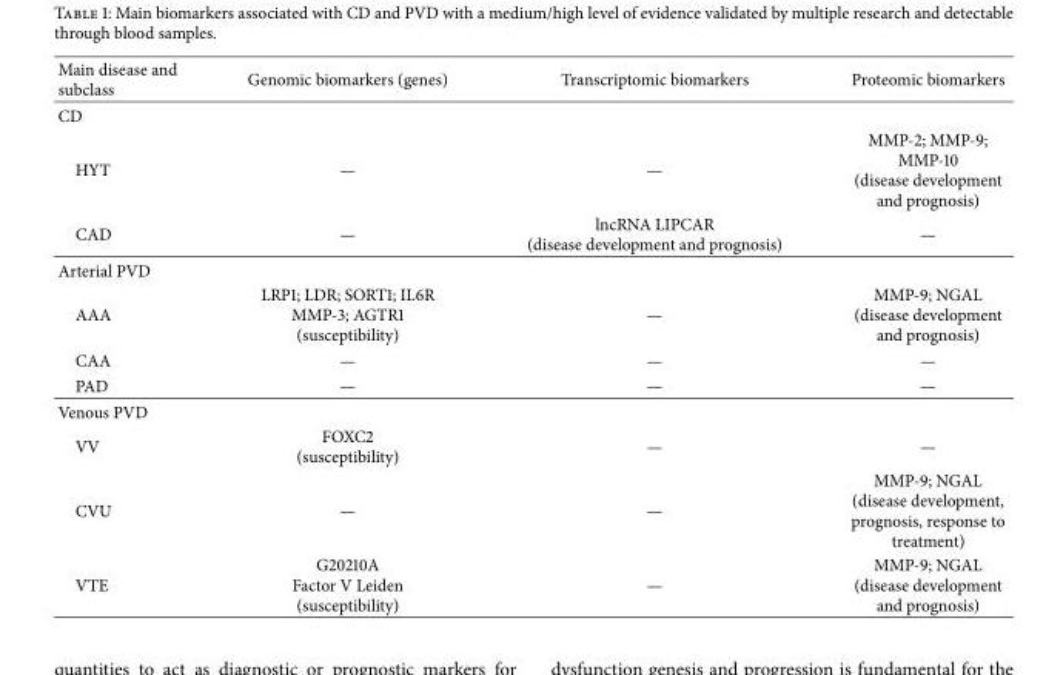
<table><thead><tr><td>Main disease and subclass</td><td>Genomic biomarkers (genes)</td><td>Transcriptomic biomarkers</td><td>Proteomic biomarkers</td></tr></thead><tbody><tr><td colspan="4">CD</td></tr><tr><td>HYT</td><td>—</td><td>—</td><td>MMP-2; MMP-9; MMP-10 (disease development and prognosis)</td></tr><tr><td>CAD</td><td>—</td><td>lncRNA LIPCAR (disease development and prognosis)</td><td>—</td></tr><tr><td colspan="4">Arterial PVD</td></tr><tr><td>AAA</td><td>LRP1; LDR; SORT1; IL6R MMP-3; AGTR1 (susceptibility)</td><td>—</td><td>MMP-9; NGAL (disease development and prognosis)</td></tr><tr><td>CAA</td><td>—</td><td>—</td><td>—</td></tr><tr><td>PAD</td><td>—</td><td>—</td><td>—</td></tr><tr><td colspan="4">Venous PVD</td></tr><tr><td>VV</td><td>FOXC2 (susceptibility)</td><td>—</td><td>—</td></tr><tr><td>CVU</td><td>—</td><td>—</td><td>MMP-9; NGAL (disease development, prognosis, response to treatment)</td></tr><tr><td>VTE</td><td>G20210A Factor V Leiden (susceptibility)</td><td>—</td><td>MMP-9; NGAL (disease development and prognosis)</td></tr></tbody></table>